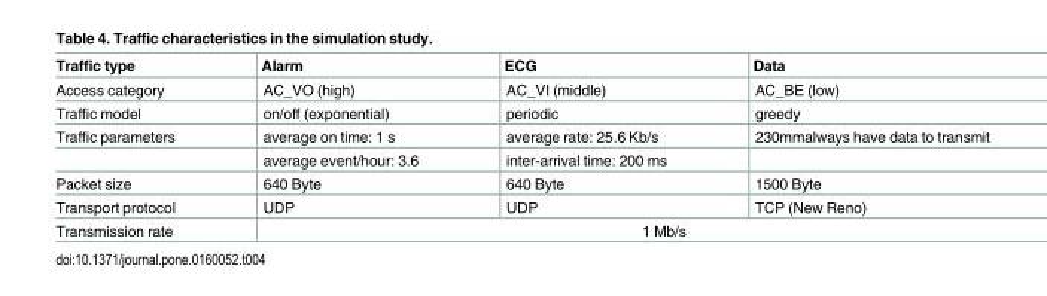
<table><thead><tr><td>Traffic type</td><td>Alarm</td><td>ECG</td><td>Data</td></tr></thead><tbody><tr><td>Access category</td><td>AC_VO (high)</td><td>AC_VI (middle)</td><td>AC_BE (low)</td></tr><tr><td>Traffic model</td><td>on/off (exponential)</td><td>periodic</td><td>greedy</td></tr><tr><td rowspan="2">Traffic parameters</td><td>average on time: 1 s</td><td>average rate: 25.6 Kb/s</td><td>230mmalways have data to transmit</td></tr><tr><td>average event/hour: 3.6</td><td>inter-arrival time: 200 ms</td><td></td></tr><tr><td>Packet size</td><td>640 Byte</td><td>640 Byte</td><td>1500 Byte</td></tr><tr><td>Transport protocol</td><td>UDP</td><td>UDP</td><td>TCP (New Reno)</td></tr><tr><td>Transmission rate</td><td colspan="3">1 Mb/s</td></tr></tbody></table>